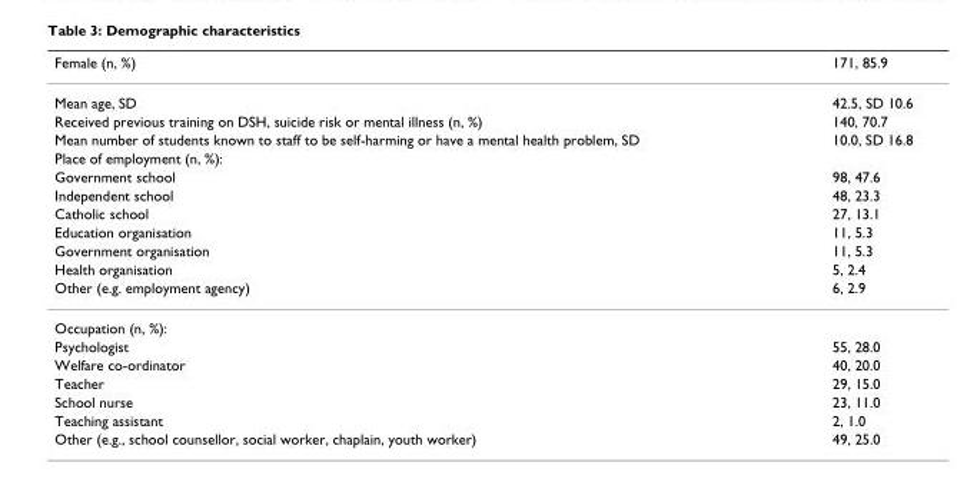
<table><thead><tr><td>Female (n, %)</td><td>171, 85.9</td></tr></thead><tbody><tr><td>Mean age, SD</td><td>42.5, SD 10.6</td></tr><tr><td>Received previous training on DSH, suicide risk or mental illness (n, %)</td><td>140, 70.7</td></tr><tr><td>Mean number of students known to staff to be self-harming or have a mental health problem, SD</td><td>10.0, SD 16.8</td></tr><tr><td colspan="2">Place of employment (n, %):</td></tr><tr><td>Government school</td><td>98, 47.6</td></tr><tr><td>Independent school</td><td>48, 23.3</td></tr><tr><td>Catholic school</td><td>27, 13.1</td></tr><tr><td>Education organisation</td><td>11, 5.3</td></tr><tr><td>Government organisation</td><td>11, 5.3</td></tr><tr><td>Health organisation</td><td>5, 2.4</td></tr><tr><td>Other (e.g. employment agency)</td><td>6, 2.9</td></tr><tr><td colspan="2">Occupation (n, %):</td></tr><tr><td>Psychologist</td><td>55, 28.0</td></tr><tr><td>Welfare co-ordinator</td><td>40, 20.0</td></tr><tr><td>Teacher</td><td>29, 15.0</td></tr><tr><td>School nurse</td><td>23, 11.0</td></tr><tr><td>Teaching assistant</td><td>2, 1.0</td></tr><tr><td>Other (e.g., school counsellor, social worker, chaplain, youth worker)</td><td>49, 25.0</td></tr></tbody></table>